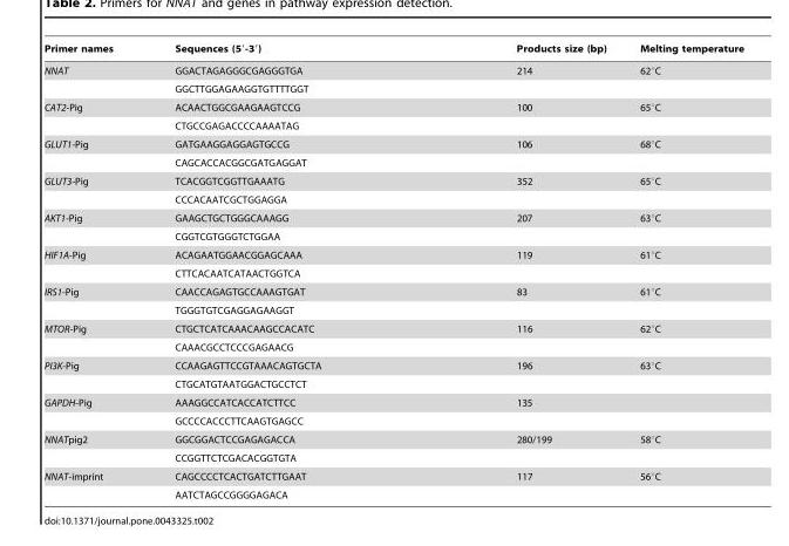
<table><thead><tr><td>Primer names</td><td>Sequences (5′-3′)</td><td>Products size (bp)</td><td>Melting temperature</td></tr></thead><tbody><tr><td rowspan="2">NNAT</td><td>GGACTAGAGGGCGAGGGTGA</td><td>214</td><td>62°C</td></tr><tr><td>GGCTTGGAGAAGGTGTTTTGGT</td><td></td><td></td></tr><tr><td rowspan="2">CAT2-Pig</td><td>ACAACTGGCGAAGAAGTCCG</td><td>100</td><td>65°C</td></tr><tr><td>CTGCCGAGACCCCAAAATAG</td><td></td><td></td></tr><tr><td rowspan="2">GLUT1-Pig</td><td>GATGAAGGAGGAGTGCCG</td><td>106</td><td>68°C</td></tr><tr><td>CAGCACCACGGCGATGAGGAT</td><td></td><td></td></tr><tr><td rowspan="2">GLUT3-Pig</td><td>TCACGGTCGGTTGAAATG</td><td>352</td><td>65°C</td></tr><tr><td>CCCACAATCGCTGGAGGA</td><td></td><td></td></tr><tr><td rowspan="2">AKT1-Pig</td><td>GAAGCTGCTGGGCAAAGG</td><td>207</td><td>63°C</td></tr><tr><td>CGGTCGTGGGTCTGGAA</td><td></td><td></td></tr><tr><td rowspan="2">HIF1A-Pig</td><td>ACAGAATGGAACGGAGCAAA</td><td>119</td><td>61°C</td></tr><tr><td>CTTCACAATCATAACTGGTCA</td><td></td><td></td></tr><tr><td rowspan="2">IRS1-Pig</td><td>CAACCAGAGTGCCAAAGTGAT</td><td>83</td><td>61°C</td></tr><tr><td>TGGGTGTCGAGGAGAAGGT</td><td></td><td></td></tr><tr><td rowspan="2">MTOR-Pig</td><td>CTGCTCATCAAACAAGCCACATC</td><td>116</td><td>62°C</td></tr><tr><td>CAAACGCCTCCCGAGAACG</td><td></td><td></td></tr><tr><td rowspan="2">PI3K-Pig</td><td>CCAAGAGTTCCGTAAACAGTGCTA</td><td>196</td><td>63°C</td></tr><tr><td>CTGCATGTAATGGACTGCCTCT</td><td></td><td></td></tr><tr><td rowspan="2">GAPDH-Pig</td><td>AAAGGCCATCACCATCTTCC</td><td>135</td><td></td></tr><tr><td>GCCCCACCCTTCAAGTGAGCC</td><td></td><td></td></tr><tr><td rowspan="2">NNATpig2</td><td>GGCGGACTCCGAGAGACCA</td><td>280/199</td><td>58°C</td></tr><tr><td>CCGGTTCTCGACACGGTGTA</td><td></td><td></td></tr><tr><td rowspan="2">NNAT-imprint</td><td>CAGCCCCTCACTGATCTTGAAT</td><td>117</td><td>56°C</td></tr><tr><td>AATCTAGCCGGGGAGACA</td><td></td><td></td></tr></tbody></table>